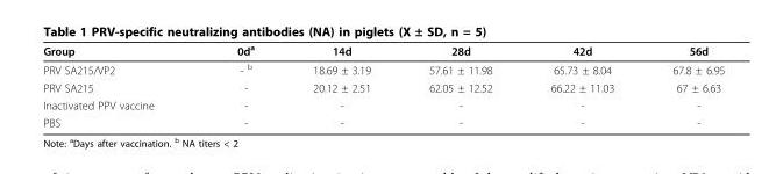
<table><thead><tr><td>Group</td><td>0d<sup>a</sup></td><td>14d</td><td>28d</td><td>42d</td><td>56d</td></tr></thead><tbody><tr><td>PRV SA215/VP2</td><td>- <sup>b</sup></td><td>18.69 ± 3.19</td><td>57.61 ± 11.98</td><td>65.73 ± 8.04</td><td>67.8 ± 6.95</td></tr><tr><td>PRV SA215</td><td>-</td><td>20.12 ± 2.51</td><td>62.05 ± 12.52</td><td>66.22 ± 11.03</td><td>67 ± 6.63</td></tr><tr><td>Inactivated PPV vaccine</td><td>-</td><td>-</td><td>-</td><td>-</td><td>-</td></tr><tr><td>PBS</td><td>-</td><td>-</td><td>-</td><td>-</td><td>-</td></tr></tbody></table>